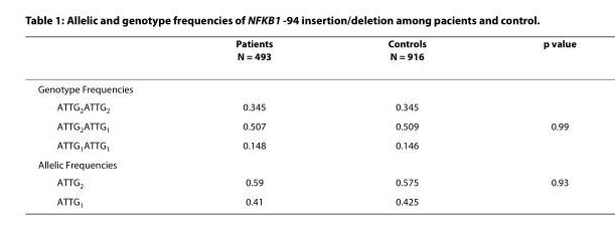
<table><thead><tr><td></td><td>Patients N = 493</td><td>Controls N = 916</td><td>p value</td></tr></thead><tbody><tr><td colspan="4">Genotype Frequencies</td></tr><tr><td>ATTG<sub>2</sub>ATTG<sub>2</sub></td><td>0.345</td><td>0.345</td><td></td></tr><tr><td>ATTG<sub>2</sub>ATTG<sub>1</sub></td><td>0.507</td><td>0.509</td><td>0.99</td></tr><tr><td>ATTG<sub>1</sub>ATTG<sub>1</sub></td><td>0.148</td><td>0.146</td><td></td></tr><tr><td colspan="4">Allelic Frequencies</td></tr><tr><td>ATTG<sub>2</sub></td><td>0.59</td><td>0.575</td><td>0.93</td></tr><tr><td>ATTG<sub>1</sub></td><td>0.41</td><td>0.425</td><td></td></tr></tbody></table>